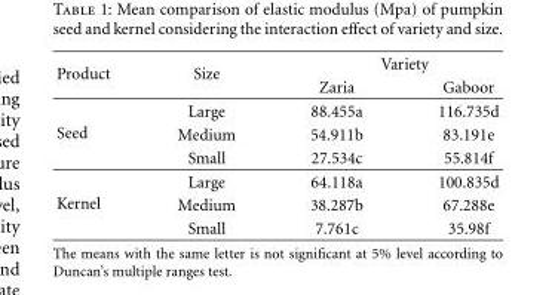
<table><thead><tr><td rowspan="2">Product</td><td rowspan="2">Size</td><td colspan="2">Variety</td></tr><tr><td>Zaria</td><td>Gaboor</td></tr></thead><tbody><tr><td rowspan="3">Seed</td><td>Large</td><td>88.455a</td><td>116.735d</td></tr><tr><td>Medium</td><td>54.911b</td><td>83.191e</td></tr><tr><td>Small</td><td>27.534c</td><td>55.814f</td></tr><tr><td rowspan="3">Kernel</td><td>Large</td><td>64.118a</td><td>100.835d</td></tr><tr><td>Medium</td><td>38.287b</td><td>67.288e</td></tr><tr><td>Small</td><td>7.761c</td><td>35.98f</td></tr></tbody></table>